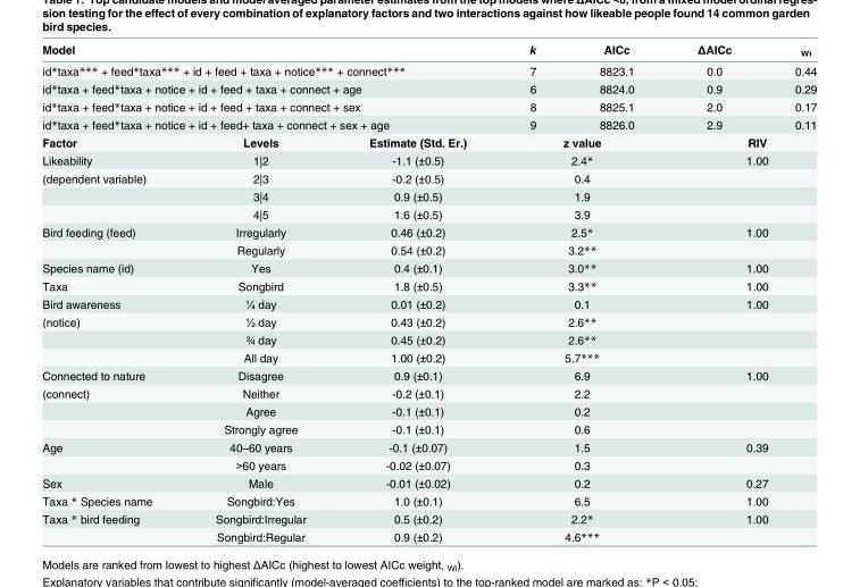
<table><thead><tr><td colspan="3">Model</td><td>k</td><td>AICc</td><td>ΔAICc</td><td><sub>Wi</sub></td></tr></thead><tbody><tr><td colspan="3">id*taxa*** + feed*taxa*** + id + feed + taxa + notice*** + connect***</td><td>7</td><td>8823.1</td><td>0.0</td><td>0.44</td></tr><tr><td colspan="3">id*taxa + feed*taxa + notice + id + feed + taxa + connect + age</td><td>6</td><td>8824.0</td><td>0.9</td><td>0.29</td></tr><tr><td colspan="3">id*taxa + feed*taxa + notice + id + feed + taxa + connect + sex</td><td>8</td><td>8825.1</td><td>2.0</td><td>0.17</td></tr><tr><td colspan="3">id*taxa + feed*taxa + notice + id + feed+ taxa + connect + sex + age</td><td>9</td><td>8826.0</td><td>2.9</td><td>0.11</td></tr><tr><td>Factor</td><td>Levels</td><td>Estimate (Std. Er.)</td><td colspan="2">z value</td><td colspan="2">RIV</td></tr><tr><td>Likeability</td><td>1|2</td><td>-1.1 (±0.5)</td><td colspan="2">2.4*</td><td colspan="2">1.00</td></tr><tr><td rowspan="3">(dependent variable)</td><td>2|3</td><td>-0.2 (±0.5)</td><td colspan="2">0.4</td><td colspan="2"></td></tr><tr><td>3|4</td><td>0.9 (±0.5)</td><td colspan="2">1.9</td><td colspan="2"></td></tr><tr><td>4|5</td><td>1.6 (±0.5)</td><td colspan="2">3.9</td><td colspan="2"></td></tr><tr><td rowspan="2">Bird feeding (feed)</td><td>Irregularly</td><td>0.46 (±0.2)</td><td colspan="2">2.5*</td><td colspan="2">1.00</td></tr><tr><td>Regularly</td><td>0.54 (±0.2)</td><td colspan="2">3.2**</td><td colspan="2"></td></tr><tr><td>Species name (id)</td><td>Yes</td><td>0.4 (±0.1)</td><td colspan="2">3.0**</td><td colspan="2">1.00</td></tr><tr><td>Taxa</td><td>Songbird</td><td>1.8 (±0.5)</td><td colspan="2">3.3**</td><td colspan="2">1.00</td></tr><tr><td>Bird awareness</td><td>¼ day</td><td>0.01 (±0.2)</td><td colspan="2">0.1</td><td colspan="2">1.00</td></tr><tr><td rowspan="3">(notice)</td><td>½ day</td><td>0.43 (±0.2)</td><td colspan="2">2.6**</td><td colspan="2"></td></tr><tr><td>¾ day</td><td>0.45 (±0.2)</td><td colspan="2">2.6**</td><td colspan="2"></td></tr><tr><td>All day</td><td>1.00 (±0.2)</td><td colspan="2">5.7***</td><td colspan="2"></td></tr><tr><td>Connected to nature</td><td>Disagree</td><td>0.9 (±0.1)</td><td colspan="2">6.9</td><td colspan="2">1.00</td></tr><tr><td rowspan="3">(connect)</td><td>Neither</td><td>-0.2 (±0.1)</td><td colspan="2">2.2</td><td colspan="2"></td></tr><tr><td>Agree</td><td>-0.1 (±0.1)</td><td colspan="2">0.2</td><td colspan="2"></td></tr><tr><td>Strongly agree</td><td>-0.1 (±0.1)</td><td colspan="2">0.6</td><td colspan="2"></td></tr><tr><td rowspan="2">Age</td><td>40–60 years</td><td>-0.1 (±0.07)</td><td colspan="2">1.5</td><td colspan="2">0.39</td></tr><tr><td>&gt;60 years</td><td>-0.02 (±0.07)</td><td colspan="2">0.3</td><td colspan="2"></td></tr><tr><td>Sex</td><td>Male</td><td>-0.01 (±0.02)</td><td colspan="2">0.2</td><td colspan="2">0.27</td></tr><tr><td>Taxa * Species name</td><td>Songbird:Yes</td><td>1.0 (±0.1)</td><td colspan="2">6.5</td><td colspan="2">1.00</td></tr><tr><td rowspan="2">Taxa * bird feeding</td><td>Songbird:Irregular</td><td>0.5 (±0.2)</td><td colspan="2">2.2*</td><td colspan="2">1.00</td></tr><tr><td>Songbird:Regular</td><td>0.9 (±0.2)</td><td colspan="2">4.6***</td><td colspan="2"></td></tr></tbody></table>